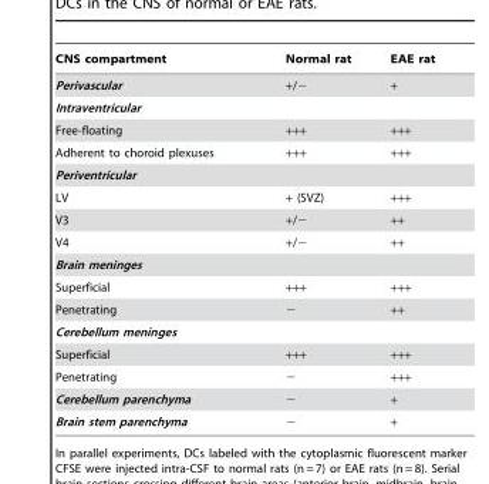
<table><thead><tr><td>CNS compartment</td><td>Normal rat</td><td>EAE rat</td></tr></thead><tbody><tr><td>Perivascular</td><td>+/−</td><td>+</td></tr><tr><td colspan="3">Intraventricular</td></tr><tr><td>Free-floating</td><td>+++</td><td>+++</td></tr><tr><td>Adherent to choroid plexuses</td><td>+++</td><td>+++</td></tr><tr><td colspan="3">Periventricular</td></tr><tr><td>LV</td><td>+ (SVZ)</td><td>+++</td></tr><tr><td>V3</td><td>+/−</td><td>++</td></tr><tr><td>V4</td><td>+/−</td><td>++</td></tr><tr><td colspan="3">Brain meninges</td></tr><tr><td>Superficial</td><td>+++</td><td>+++</td></tr><tr><td>Penetrating</td><td>−</td><td>++</td></tr><tr><td colspan="3">Cerebellum meninges</td></tr><tr><td>Superficial</td><td>+++</td><td>+++</td></tr><tr><td>Penetrating</td><td>−</td><td>+++</td></tr><tr><td>Cerebellum parenchyma</td><td>−</td><td>+</td></tr><tr><td>Brain stem parenchyma</td><td>−</td><td>+</td></tr></tbody></table>